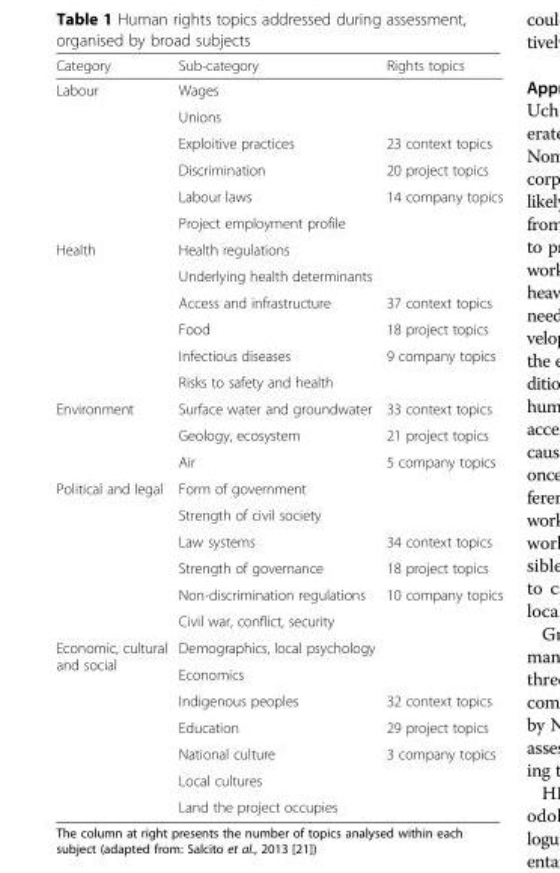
<table><thead><tr><td>Category</td><td>Sub-category</td><td>Rights topics</td></tr></thead><tbody><tr><td rowspan="6">Labour</td><td>Wages</td><td rowspan="2"></td></tr><tr><td>Unions</td></tr><tr><td>Exploitive practices</td><td>23 context topics</td></tr><tr><td>Discrimination</td><td>20 project topics</td></tr><tr><td>Labour laws</td><td>14 company topics</td></tr><tr><td>Project employment profile</td><td></td></tr><tr><td rowspan="6">Health</td><td>Health regulations</td><td rowspan="2"></td></tr><tr><td>Underlying health determinants</td></tr><tr><td>Access and infrastructure</td><td>37 context topics</td></tr><tr><td>Food</td><td>18 project topics</td></tr><tr><td>Infectious diseases</td><td>9 company topics</td></tr><tr><td>Risks to safety and health</td><td></td></tr><tr><td rowspan="3">Environment</td><td>Surface water and groundwater</td><td>33 context topics</td></tr><tr><td>Geology, ecosystem</td><td>21 project topics</td></tr><tr><td>Air</td><td>5 company topics</td></tr><tr><td rowspan="6">Political and legal</td><td>Form of government</td><td rowspan="2"></td></tr><tr><td>Strength of civil society</td></tr><tr><td>Law systems</td><td>34 context topics</td></tr><tr><td>Strength of governance</td><td>18 project topics</td></tr><tr><td>Non-discrimination regulations</td><td>10 company topics</td></tr><tr><td>Civil war, conflict, security</td><td></td></tr><tr><td rowspan="7">Economic, cultural and social</td><td>Demographics, local psychology</td><td rowspan="2"></td></tr><tr><td>Economics</td></tr><tr><td>Indigenous peoples</td><td>32 context topics</td></tr><tr><td>Education</td><td>29 project topics</td></tr><tr><td>National culture</td><td>3 company topics</td></tr><tr><td>Local cultures</td><td rowspan="2"></td></tr><tr><td>Land the project occupies</td></tr></tbody></table>